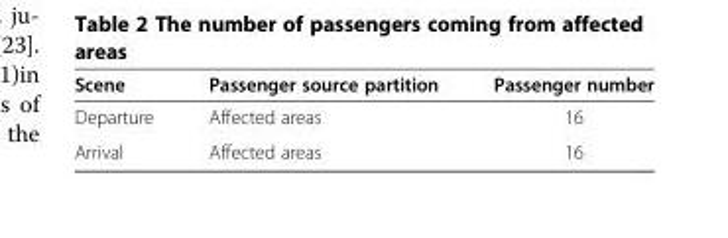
<table><thead><tr><td>Scene</td><td>Passenger source partition</td><td>Passenger number</td></tr></thead><tbody><tr><td>Departure</td><td>Affected areas</td><td>16</td></tr><tr><td>Arrival</td><td>Affected areas</td><td>16</td></tr></tbody></table>